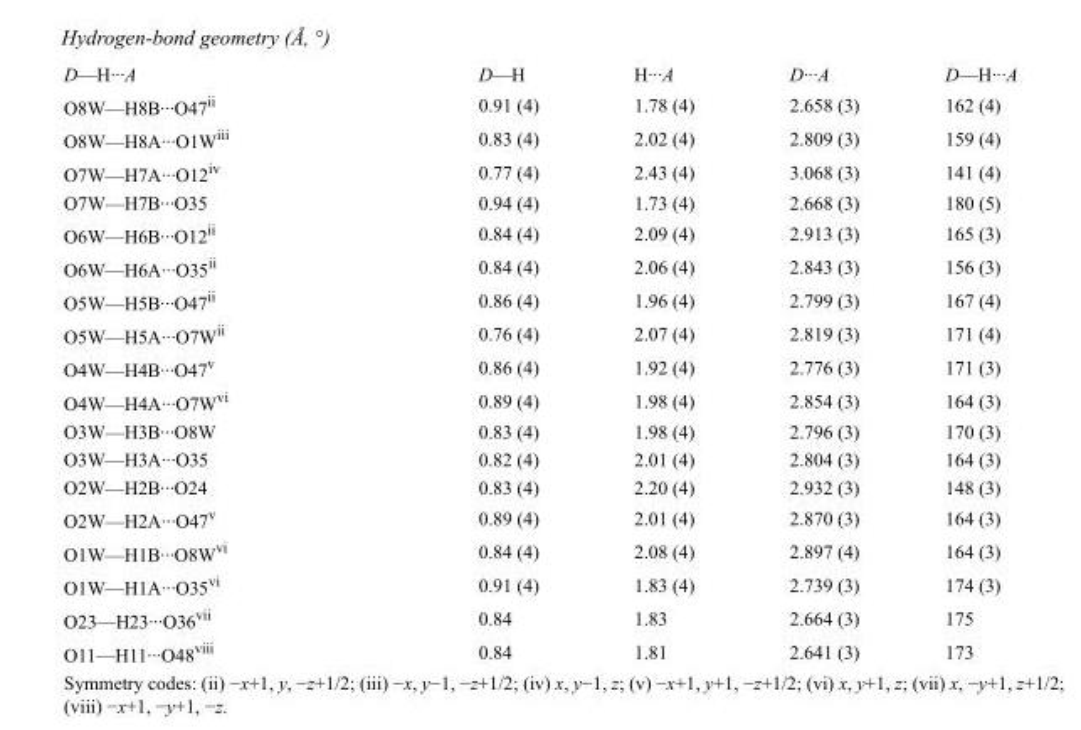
<table><tbody><tr><td>D—H···A</td><td>D—H</td><td>H···A</td><td>D···A</td><td>D—H···A</td></tr><tr><td>O8W—H8B···O47<sup>ii</sup></td><td>0.91 (4)</td><td>1.78 (4)</td><td>2.658 (3)</td><td>162 (4)</td></tr><tr><td>O8W—H8A···O1W<sup>iii</sup></td><td>0.83 (4)</td><td>2.02 (4)</td><td>2.809 (3)</td><td>159 (4)</td></tr><tr><td>O7W—H7A···O12<sup>iv</sup></td><td>0.77 (4)</td><td>2.43 (4)</td><td>3.068 (3)</td><td>141 (4)</td></tr><tr><td>O7W—H7B···O35</td><td>0.94 (4)</td><td>1.73 (4)</td><td>2.668 (3)</td><td>180 (5)</td></tr><tr><td>O6W—H6B···O12<sup>ii</sup></td><td>0.84 (4)</td><td>2.09 (4)</td><td>2.913 (3)</td><td>165 (3)</td></tr><tr><td>O6W—H6A···O35<sup>ii</sup></td><td>0.84 (4)</td><td>2.06 (4)</td><td>2.843 (3)</td><td>156 (3)</td></tr><tr><td>O5W—H5B···O47<sup>ii</sup></td><td>0.86 (4)</td><td>1.96 (4)</td><td>2.799 (3)</td><td>167 (4)</td></tr><tr><td>O5W—H5A···O7W<sup>ii</sup></td><td>0.76 (4)</td><td>2.07 (4)</td><td>2.819 (3)</td><td>171 (4)</td></tr><tr><td>O4W—H4B···O47<sup>v</sup></td><td>0.86 (4)</td><td>1.92 (4)</td><td>2.776 (3)</td><td>171 (3)</td></tr><tr><td>O4W—H4A···O7W<sup>vi</sup></td><td>0.89 (4)</td><td>1.98 (4)</td><td>2.854 (3)</td><td>164 (3)</td></tr><tr><td>O3W—H3B···O8W</td><td>0.83 (4)</td><td>1.98 (4)</td><td>2.796 (3)</td><td>170 (3)</td></tr><tr><td>O3W—H3A···O35</td><td>0.82 (4)</td><td>2.01 (4)</td><td>2.804 (3)</td><td>164 (3)</td></tr><tr><td>O2W—H2B···O24</td><td>0.83 (4)</td><td>2.20 (4)</td><td>2.932 (3)</td><td>148 (3)</td></tr><tr><td>O2W—H2A···O47<sup>v</sup></td><td>0.89 (4)</td><td>2.01 (4)</td><td>2.870 (3)</td><td>164 (3)</td></tr><tr><td>O1W—H1B···O8W<sup>vi</sup></td><td>0.84 (4)</td><td>2.08 (4)</td><td>2.897 (4)</td><td>164 (3)</td></tr><tr><td>O1W—H1A···O35<sup>vi</sup></td><td>0.91 (4)</td><td>1.83 (4)</td><td>2.739 (3)</td><td>174 (3)</td></tr><tr><td>O23—H23···O36<sup>vii</sup></td><td>0.84</td><td>1.83</td><td>2.664 (3)</td><td>175</td></tr><tr><td>O11—H11···O48<sup>viii</sup></td><td>0.84</td><td>1.81</td><td>2.641 (3)</td><td>173</td></tr></tbody></table>